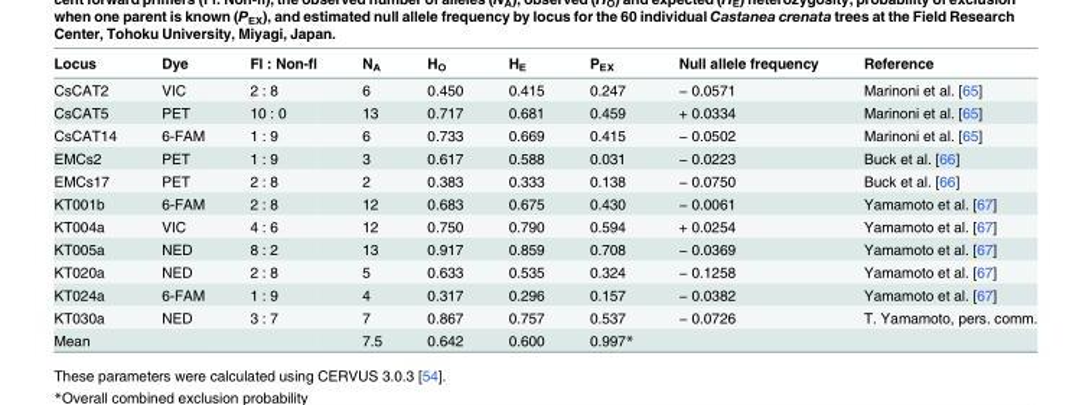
<table><thead><tr><td>Locus</td><td>Dye</td><td>Fl : Non-fl</td><td>N<sub>A</sub></td><td>H<sub>O</sub></td><td>H<sub>E</sub></td><td>P<sub>EX</sub></td><td>Null allele frequency</td><td>Reference</td></tr></thead><tbody><tr><td>CsCAT2</td><td>VIC</td><td>2 : 8</td><td>6</td><td>0.450</td><td>0.415</td><td>0.247</td><td>− 0.0571</td><td>Marinoni et al. [65]</td></tr><tr><td>CsCAT5</td><td>PET</td><td>10 : 0</td><td>13</td><td>0.717</td><td>0.681</td><td>0.459</td><td>+ 0.0334</td><td>Marinoni et al. [65]</td></tr><tr><td>CsCAT14</td><td>6-FAM</td><td>1 : 9</td><td>6</td><td>0.733</td><td>0.669</td><td>0.415</td><td>− 0.0502</td><td>Marinoni et al. [65]</td></tr><tr><td>EMCs2</td><td>PET</td><td>1 : 9</td><td>3</td><td>0.617</td><td>0.588</td><td>0.031</td><td>− 0.0223</td><td>Buck et al. [66]</td></tr><tr><td>EMCs17</td><td>PET</td><td>2 : 8</td><td>2</td><td>0.383</td><td>0.333</td><td>0.138</td><td>− 0.0750</td><td>Buck et al. [66]</td></tr><tr><td>KT001b</td><td>6-FAM</td><td>2 : 8</td><td>12</td><td>0.683</td><td>0.675</td><td>0.430</td><td>− 0.0061</td><td>Yamamoto et al. [67]</td></tr><tr><td>KT004a</td><td>VIC</td><td>4 : 6</td><td>12</td><td>0.750</td><td>0.790</td><td>0.594</td><td>+ 0.0254</td><td>Yamamoto et al. [67]</td></tr><tr><td>KT005a</td><td>NED</td><td>8 : 2</td><td>13</td><td>0.917</td><td>0.859</td><td>0.708</td><td>− 0.0369</td><td>Yamamoto et al. [67]</td></tr><tr><td>KT020a</td><td>NED</td><td>2 : 8</td><td>5</td><td>0.633</td><td>0.535</td><td>0.324</td><td>− 0.1258</td><td>Yamamoto et al. [67]</td></tr><tr><td>KT024a</td><td>6-FAM</td><td>1 : 9</td><td>4</td><td>0.317</td><td>0.296</td><td>0.157</td><td>− 0.0382</td><td>Yamamoto et al. [67]</td></tr><tr><td>KT030a</td><td>NED</td><td>3 : 7</td><td>7</td><td>0.867</td><td>0.757</td><td>0.537</td><td>− 0.0726</td><td>T. Yamamoto, pers. comm.</td></tr><tr><td>Mean</td><td></td><td></td><td>7.5</td><td>0.642</td><td>0.600</td><td>0.997*</td><td></td><td></td></tr></tbody></table>